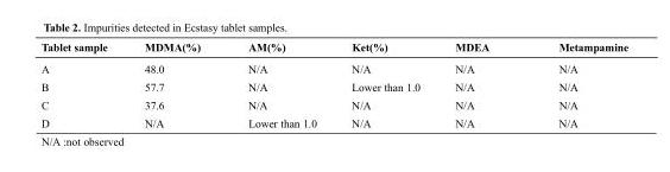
<table><thead><tr><td>Tablet sample</td><td>MDMA(%)</td><td>AM(%)</td><td>Ket(%)</td><td>MDEA</td><td>Metampamine</td></tr></thead><tbody><tr><td>A</td><td>48.0</td><td>N/A</td><td>N/A</td><td>N/A</td><td>N/A</td></tr><tr><td>B</td><td>57.7</td><td>N/A</td><td>Lower than 1.0</td><td>N/A</td><td>N/A</td></tr><tr><td>C</td><td>37.6</td><td>N/A</td><td>N/A</td><td>N/A</td><td>N/A</td></tr><tr><td>D</td><td>N/A</td><td>Lower than 1.0</td><td>N/A</td><td>N/A</td><td>N/A</td></tr></tbody></table>